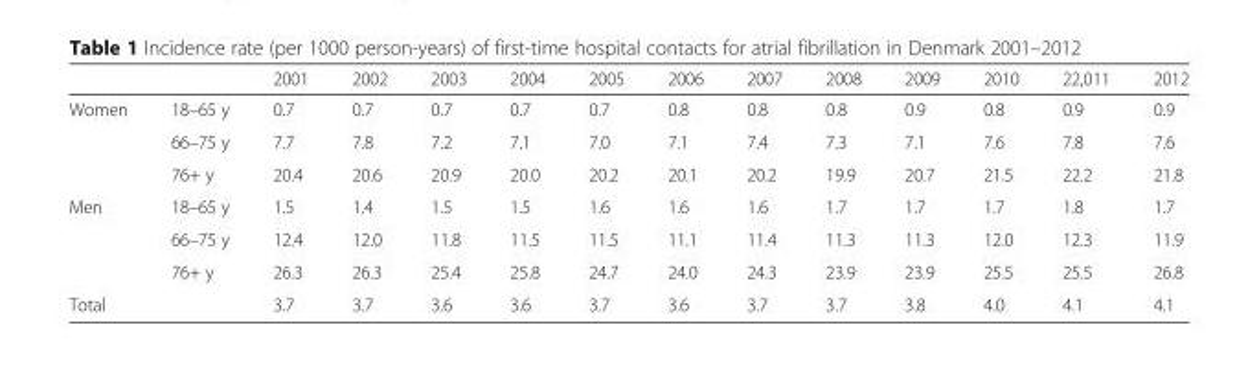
<table><thead><tr><td></td><td></td><td>2001</td><td>2002</td><td>2003</td><td>2004</td><td>2005</td><td>2006</td><td>2007</td><td>2008</td><td>2009</td><td>2010</td><td>22,011</td><td>2012</td></tr></thead><tbody><tr><td rowspan="3">Women</td><td>18–65 y</td><td>0.7</td><td>0.7</td><td>0.7</td><td>0.7</td><td>0.7</td><td>0.8</td><td>0.8</td><td>0.8</td><td>0.9</td><td>0.8</td><td>0.9</td><td>0.9</td></tr><tr><td>66–75 y</td><td>7.7</td><td>7.8</td><td>7.2</td><td>7.1</td><td>7.0</td><td>7.1</td><td>7.4</td><td>7.3</td><td>7.1</td><td>7.6</td><td>7.8</td><td>7.6</td></tr><tr><td>76+ y</td><td>20.4</td><td>20.6</td><td>20.9</td><td>20.0</td><td>20.2</td><td>20.1</td><td>20.2</td><td>19.9</td><td>20.7</td><td>21.5</td><td>22.2</td><td>21.8</td></tr><tr><td rowspan="3">Men</td><td>18–65 y</td><td>1.5</td><td>1.4</td><td>1.5</td><td>1.5</td><td>1.6</td><td>1.6</td><td>1.6</td><td>1.7</td><td>1.7</td><td>1.7</td><td>1.8</td><td>1.7</td></tr><tr><td>66–75 y</td><td>12.4</td><td>12.0</td><td>11.8</td><td>11.5</td><td>11.5</td><td>11.1</td><td>11.4</td><td>11.3</td><td>11.3</td><td>12.0</td><td>12.3</td><td>11.9</td></tr><tr><td>76+ y</td><td>26.3</td><td>26.3</td><td>25.4</td><td>25.8</td><td>24.7</td><td>24.0</td><td>24.3</td><td>23.9</td><td>23.9</td><td>25.5</td><td>25.5</td><td>26.8</td></tr><tr><td>Total</td><td></td><td>3.7</td><td>3.7</td><td>3.6</td><td>3.6</td><td>3.7</td><td>3.6</td><td>3.7</td><td>3.7</td><td>3.8</td><td>4.0</td><td>4.1</td><td>4.1</td></tr></tbody></table>